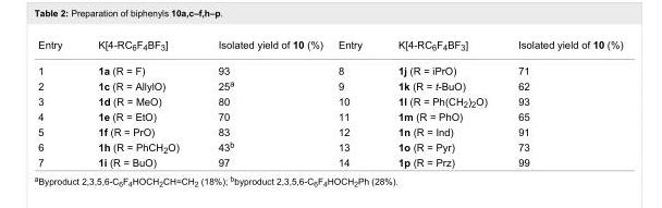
<table><tbody><tr><td>Entry</td><td>K[4-RC<sub>6</sub>F<sub>4</sub>BF<sub>3</sub>]</td><td>Isolated yield of 10 (%)</td><td>Entry</td><td>K[4-RC<sub>6</sub>F<sub>4</sub>BF<sub>3</sub>]</td><td>Isolated yield of 10 (%)</td></tr><tr><td>1</td><td>1a (R = F)</td><td>93</td><td>8</td><td>1j (R = iPrO)</td><td>71</td></tr><tr><td>2</td><td>1c (R = AllylO)</td><td>25<sup>a</sup></td><td>9</td><td>1k (R = t-BuO)</td><td>62</td></tr><tr><td>3</td><td>1d (R = MeO)</td><td>80</td><td>10</td><td>1l (R = Ph(CH<sub>2</sub>)<sub>2</sub>O)</td><td>93</td></tr><tr><td>4</td><td>1e (R = EtO)</td><td>70</td><td>11</td><td>1m (R = PhO)</td><td>65</td></tr><tr><td>5</td><td>1f (R = PrO)</td><td>83</td><td>12</td><td>1n (R = Ind)</td><td>91</td></tr><tr><td>6</td><td>1h (R = PhCH<sub>2</sub>O)</td><td>43<sup>b</sup></td><td>13</td><td>1o (R = Pyr)</td><td>73</td></tr><tr><td>7</td><td>1i (R = BuO)</td><td>97</td><td>14</td><td>1p (R = Prz)</td><td>99</td></tr></tbody></table>